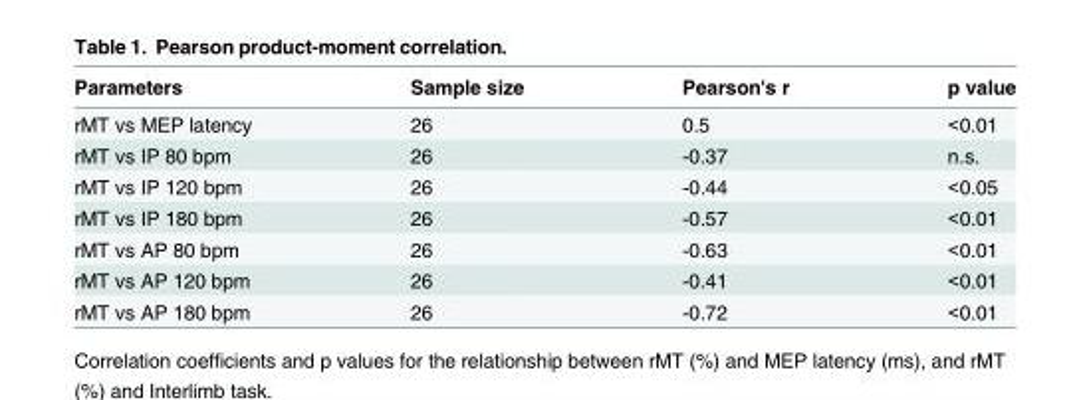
<table><thead><tr><td>Parameters</td><td>Sample size</td><td>Pearson&#x27;s r</td><td>p value</td></tr></thead><tbody><tr><td>rMT vs MEP latency</td><td>26</td><td>0.5</td><td>&lt;0.01</td></tr><tr><td>rMT vs IP 80 bpm</td><td>26</td><td>-0.37</td><td>n.s.</td></tr><tr><td>rMT vs IP 120 bpm</td><td>26</td><td>-0.44</td><td>&lt;0.05</td></tr><tr><td>rMT vs IP 180 bpm</td><td>26</td><td>-0.57</td><td>&lt;0.01</td></tr><tr><td>rMT vs AP 80 bpm</td><td>26</td><td>-0.63</td><td>&lt;0.01</td></tr><tr><td>rMT vs AP 120 bpm</td><td>26</td><td>-0.41</td><td>&lt;0.01</td></tr><tr><td>rMT vs AP 180 bpm</td><td>26</td><td>-0.72</td><td>&lt;0.01</td></tr></tbody></table>